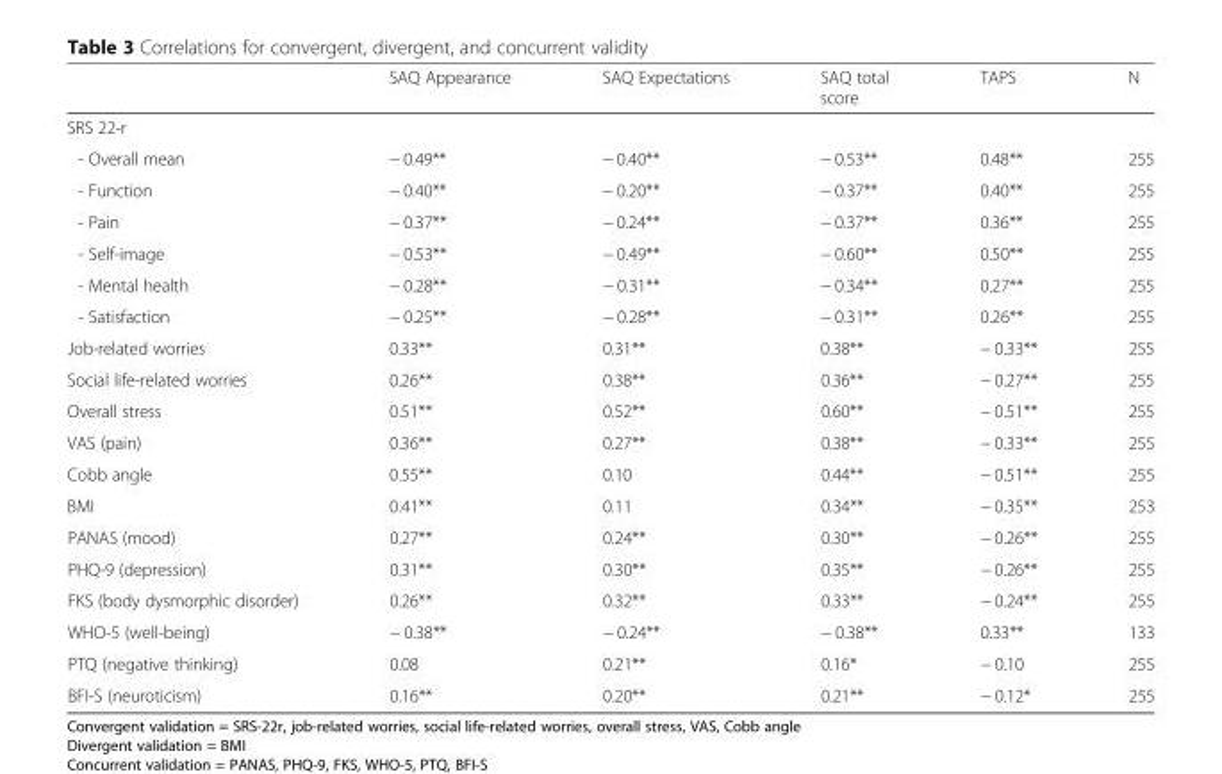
<table><thead><tr><td></td><td>SAQ Appearance</td><td>SAQ Expectations</td><td>SAQ total score</td><td>TAPS</td><td>N</td></tr></thead><tbody><tr><td colspan="6">SRS 22-r</td></tr><tr><td>- Overall mean</td><td>− 0.49**</td><td>− 0.40**</td><td>− 0.53**</td><td>0.48**</td><td>255</td></tr><tr><td>- Function</td><td>− 0.40**</td><td>− 0.20**</td><td>− 0.37**</td><td>0.40**</td><td>255</td></tr><tr><td>- Pain</td><td>− 0.37**</td><td>− 0.24**</td><td>− 0.37**</td><td>0.36**</td><td>255</td></tr><tr><td>- Self-image</td><td>− 0.53**</td><td>− 0.49**</td><td>− 0.60**</td><td>0.50**</td><td>255</td></tr><tr><td>- Mental health</td><td>− 0.28**</td><td>− 0.31**</td><td>− 0.34**</td><td>0.27**</td><td>255</td></tr><tr><td>- Satisfaction</td><td>− 0.25**</td><td>− 0.28**</td><td>− 0.31**</td><td>0.26**</td><td>255</td></tr><tr><td>Job-related worries</td><td>0.33**</td><td>0.31**</td><td>0.38**</td><td>− 0.33**</td><td>255</td></tr><tr><td>Social life-related worries</td><td>0.26**</td><td>0.38**</td><td>0.36**</td><td>− 0.27**</td><td>255</td></tr><tr><td>Overall stress</td><td>0.51**</td><td>0.52**</td><td>0.60**</td><td>− 0.51**</td><td>255</td></tr><tr><td>VAS (pain)</td><td>0.36**</td><td>0.27**</td><td>0.38**</td><td>− 0.33**</td><td>255</td></tr><tr><td>Cobb angle</td><td>0.55**</td><td>0.10</td><td>0.44**</td><td>− 0.51**</td><td>255</td></tr><tr><td>BMI</td><td>0.41**</td><td>0.11</td><td>0.34**</td><td>− 0.35**</td><td>253</td></tr><tr><td>PANAS (mood)</td><td>0.27**</td><td>0.24**</td><td>0.30**</td><td>− 0.26**</td><td>255</td></tr><tr><td>PHQ-9 (depression)</td><td>0.31**</td><td>0.30**</td><td>0.35**</td><td>− 0.26**</td><td>255</td></tr><tr><td>FKS (body dysmorphic disorder)</td><td>0.26**</td><td>0.32**</td><td>0.33**</td><td>− 0.24**</td><td>255</td></tr><tr><td>WHO-5 (well-being)</td><td>− 0.38**</td><td>− 0.24**</td><td>− 0.38**</td><td>0.33**</td><td>133</td></tr><tr><td>PTQ (negative thinking)</td><td>0.08</td><td>0.21**</td><td>0.16*</td><td>− 0.10</td><td>255</td></tr><tr><td>BFI-S (neuroticism)</td><td>0.16**</td><td>0.20**</td><td>0.21**</td><td>− 0.12*</td><td>255</td></tr></tbody></table>